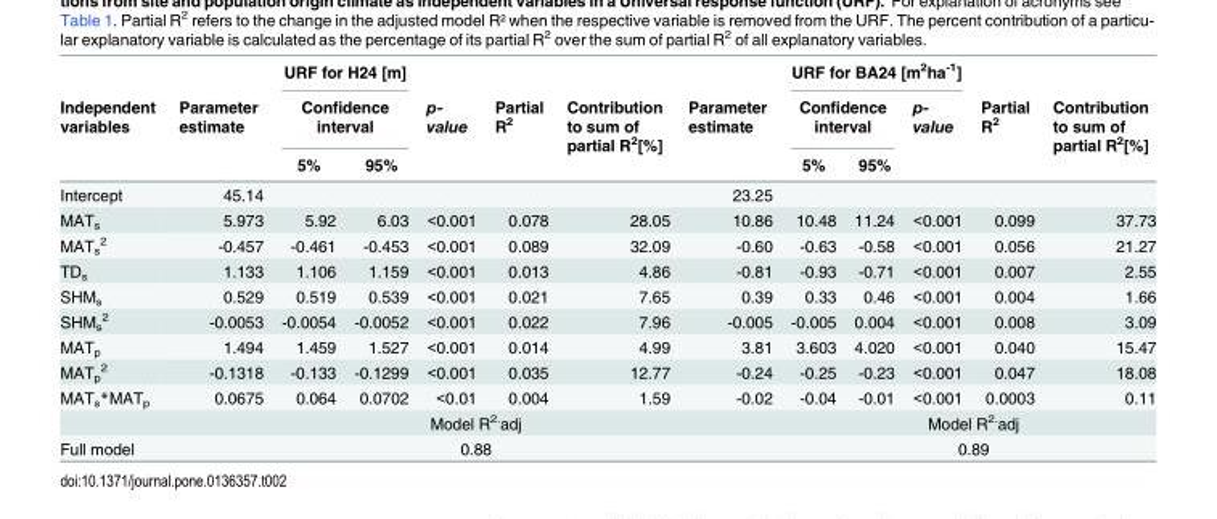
<table><thead><tr><td rowspan="3">Independent variables</td><td rowspan="3">Parameter estimate</td><td rowspan="2" colspan="2">URF for H24 [m] Confidence interval</td><td rowspan="3">p- value</td><td rowspan="3">Partial R<sup>2</sup></td><td rowspan="3">Contribution to sum of partial R<sup>2</sup>[%]</td><td rowspan="3">Parameter estimate</td><td colspan="3">URF for BA24 [m<sup>2</sup>ha<sup>-1</sup>]</td><td rowspan="3">Partial R<sup>2</sup></td><td rowspan="3">Contribution to sum of partial R<sup>2</sup>[%]</td></tr><tr><td colspan="2">Confidence interval</td><td rowspan="2">p- value</td></tr><tr><td>5%</td><td>95%</td><td>5%</td><td>95%</td></tr></thead><tbody><tr><td>Intercept</td><td>45.14</td><td></td><td></td><td></td><td></td><td></td><td>23.25</td><td></td><td></td><td></td><td></td><td></td></tr><tr><td>MAT<sub>s</sub></td><td>5.973</td><td>5.92</td><td>6.03</td><td>&lt;0.001</td><td>0.078</td><td>28.05</td><td>10.86</td><td>10.48</td><td>11.24</td><td>&lt;0.001</td><td>0.099</td><td>37.73</td></tr><tr><td>MAT<sub>s</sub> <sup>2</sup></td><td>-0.457</td><td>-0.461</td><td>-0.453</td><td>&lt;0.001</td><td>0.089</td><td>32.09</td><td>-0.60</td><td>-0.63</td><td>-0.58</td><td>&lt;0.001</td><td>0.056</td><td>21.27</td></tr><tr><td>TD<sub>s</sub></td><td>1.133</td><td>1.106</td><td>1.159</td><td>&lt;0.001</td><td>0.013</td><td>4.86</td><td>-0.81</td><td>-0.93</td><td>-0.71</td><td>&lt;0.001</td><td>0.007</td><td>2.55</td></tr><tr><td>SHM<sub>s</sub></td><td>0.529</td><td>0.519</td><td>0.539</td><td>&lt;0.001</td><td>0.021</td><td>7.65</td><td>0.39</td><td>0.33</td><td>0.46</td><td>&lt;0.001</td><td>0.004</td><td>1.66</td></tr><tr><td>SHM<sub>s</sub> <sup>2</sup></td><td>-0.0053</td><td>-0.0054</td><td>-0.0052</td><td>&lt;0.001</td><td>0.022</td><td>7.96</td><td>-0.005</td><td>-0.005</td><td>0.004</td><td>&lt;0.001</td><td>0.008</td><td>3.09</td></tr><tr><td>MAT<sub>p</sub></td><td>1.494</td><td>1.459</td><td>1.527</td><td>&lt;0.001</td><td>0.014</td><td>4.99</td><td>3.81</td><td>3.603</td><td>4.020</td><td>&lt;0.001</td><td>0.040</td><td>15.47</td></tr><tr><td>MAT<sub>p</sub> <sup>2</sup></td><td>-0.1318</td><td>-0.133</td><td>-0.1299</td><td>&lt;0.001</td><td>0.035</td><td>12.77</td><td>-0.24</td><td>-0.25</td><td>-0.23</td><td>&lt;0.001</td><td>0.047</td><td>18.08</td></tr><tr><td>MAT<sub>s</sub>*MAT<sub>p</sub></td><td>0.0675</td><td>0.064</td><td>0.0702</td><td>&lt;0.01</td><td>0.004</td><td>1.59</td><td>-0.02</td><td>-0.04</td><td>-0.01</td><td>&lt;0.001</td><td>0.0003</td><td>0.11</td></tr><tr><td colspan="2"></td><td colspan="5">Model R<sup>2.</sup>adj</td><td></td><td colspan="5">Model R<sup>2.</sup>adj</td></tr><tr><td colspan="2">Full model</td><td colspan="5">0.88</td><td></td><td colspan="5">0.89</td></tr></tbody></table>